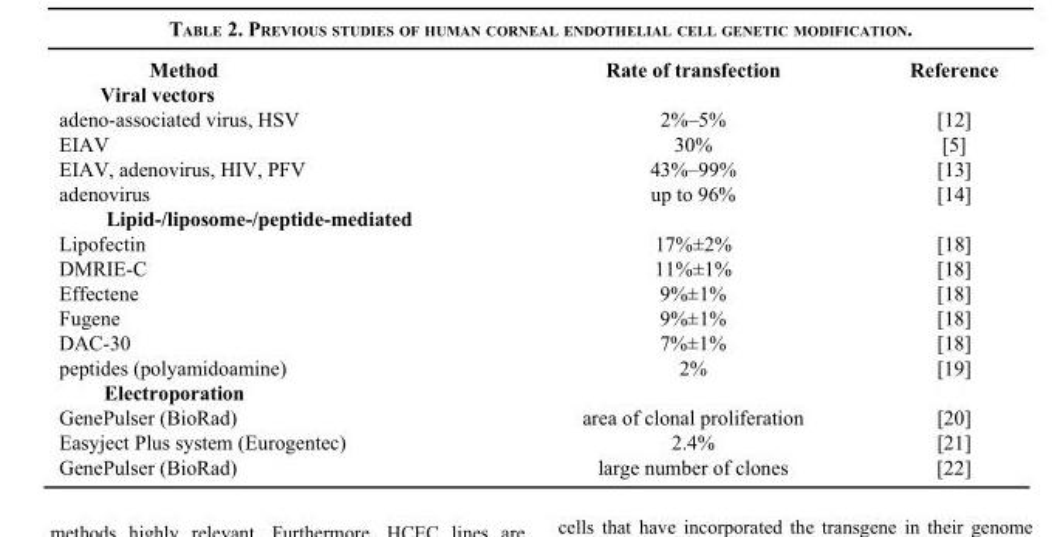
<table><thead><tr><td>Method</td><td>Rate of transfection</td><td>Reference</td></tr></thead><tbody><tr><td colspan="3">Viral vectors</td></tr><tr><td>adeno-associated virus, HSV</td><td>2%–5%</td><td>[12]</td></tr><tr><td>EIAV</td><td>30%</td><td>[5]</td></tr><tr><td>EIAV, adenovirus, HIV, PFV</td><td>43%–99%</td><td>[13]</td></tr><tr><td>adenovirus</td><td>up to 96%</td><td>[14]</td></tr><tr><td colspan="3">Lipid-/liposome-/peptide-mediated</td></tr><tr><td>Lipofectin</td><td>17%±2%</td><td>[18]</td></tr><tr><td>DMRIE-C</td><td>11%±1%</td><td>[18]</td></tr><tr><td>Effectene</td><td>9%±1%</td><td>[18]</td></tr><tr><td>Fugene</td><td>9%±1%</td><td>[18]</td></tr><tr><td>DAC-30</td><td>7%±1%</td><td>[18]</td></tr><tr><td>peptides (polyamidoamine)</td><td>2%</td><td>[19]</td></tr><tr><td colspan="3">Electroporation</td></tr><tr><td>GenePulser (BioRad)</td><td>area of clonal proliferation</td><td>[20]</td></tr><tr><td>Easyject Plus system (Eurogentec)</td><td>2.4%</td><td>[21]</td></tr><tr><td>GenePulser (BioRad)</td><td>large number of clones</td><td>[22]</td></tr></tbody></table>